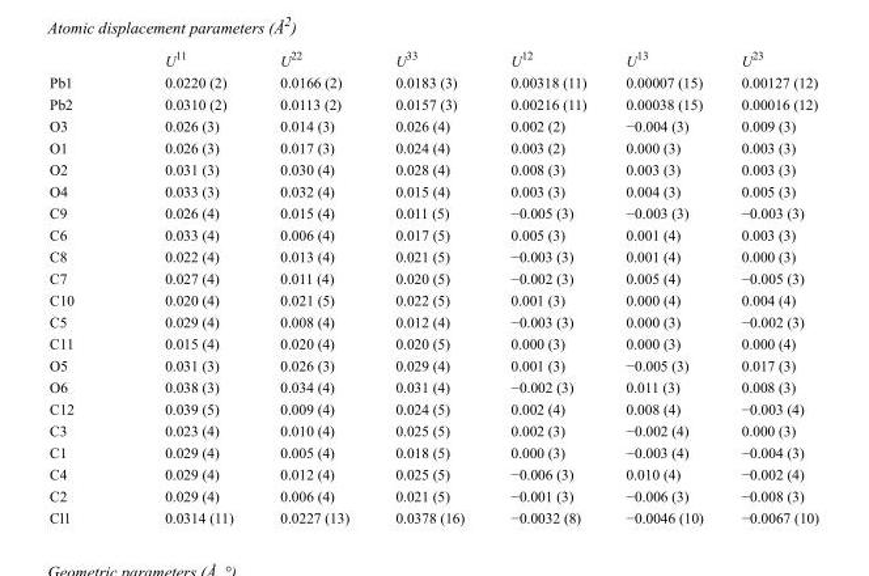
<table><thead><tr><td></td><td>U<sup>11</sup></td><td>U<sup>22</sup></td><td>U<sup>33</sup></td><td>U<sup>12</sup></td><td>U<sup>13</sup></td><td>U<sup>23</sup></td></tr></thead><tbody><tr><td>Pb1</td><td>0.0220 (2)</td><td>0.0166 (2)</td><td>0.0183 (3)</td><td>0.00318 (11)</td><td>0.00007 (15)</td><td>0.00127 (12)</td></tr><tr><td>Pb2</td><td>0.0310 (2)</td><td>0.0113 (2)</td><td>0.0157 (3)</td><td>0.00216 (11)</td><td>0.00038 (15)</td><td>0.00016 (12)</td></tr><tr><td>O3</td><td>0.026 (3)</td><td>0.014 (3)</td><td>0.026 (4)</td><td>0.002 (2)</td><td>−0.004 (3)</td><td>0.009 (3)</td></tr><tr><td>O1</td><td>0.026 (3)</td><td>0.017 (3)</td><td>0.024 (4)</td><td>0.003 (2)</td><td>0.000 (3)</td><td>0.003 (3)</td></tr><tr><td>O2</td><td>0.031 (3)</td><td>0.030 (4)</td><td>0.028 (4)</td><td>0.008 (3)</td><td>0.003 (3)</td><td>0.003 (3)</td></tr><tr><td>O4</td><td>0.033 (3)</td><td>0.032 (4)</td><td>0.015 (4)</td><td>0.003 (3)</td><td>0.004 (3)</td><td>0.005 (3)</td></tr><tr><td>C9</td><td>0.026 (4)</td><td>0.015 (4)</td><td>0.011 (5)</td><td>−0.005 (3)</td><td>−0.003 (3)</td><td>−0.003 (3)</td></tr><tr><td>C6</td><td>0.033 (4)</td><td>0.006 (4)</td><td>0.017 (5)</td><td>0.005 (3)</td><td>0.001 (4)</td><td>0.003 (3)</td></tr><tr><td>C8</td><td>0.022 (4)</td><td>0.013 (4)</td><td>0.021 (5)</td><td>−0.003 (3)</td><td>0.001 (4)</td><td>0.000 (3)</td></tr><tr><td>C7</td><td>0.027 (4)</td><td>0.011 (4)</td><td>0.020 (5)</td><td>−0.002 (3)</td><td>0.005 (4)</td><td>−0.005 (3)</td></tr><tr><td>C10</td><td>0.020 (4)</td><td>0.021 (5)</td><td>0.022 (5)</td><td>0.001 (3)</td><td>0.000 (4)</td><td>0.004 (4)</td></tr><tr><td>C5</td><td>0.029 (4)</td><td>0.008 (4)</td><td>0.012 (4)</td><td>−0.003 (3)</td><td>0.000 (3)</td><td>−0.002 (3)</td></tr><tr><td>C11</td><td>0.015 (4)</td><td>0.020 (4)</td><td>0.020 (5)</td><td>0.000 (3)</td><td>0.000 (3)</td><td>0.000 (4)</td></tr><tr><td>O5</td><td>0.031 (3)</td><td>0.026 (3)</td><td>0.029 (4)</td><td>0.001 (3)</td><td>−0.005 (3)</td><td>0.017 (3)</td></tr><tr><td>O6</td><td>0.038 (3)</td><td>0.034 (4)</td><td>0.031 (4)</td><td>−0.002 (3)</td><td>0.011 (3)</td><td>0.008 (3)</td></tr><tr><td>C12</td><td>0.039 (5)</td><td>0.009 (4)</td><td>0.024 (5)</td><td>0.002 (4)</td><td>0.008 (4)</td><td>−0.003 (4)</td></tr><tr><td>C3</td><td>0.023 (4)</td><td>0.010 (4)</td><td>0.025 (5)</td><td>0.002 (3)</td><td>−0.002 (4)</td><td>0.000 (3)</td></tr><tr><td>C1</td><td>0.029 (4)</td><td>0.005 (4)</td><td>0.018 (5)</td><td>0.000 (3)</td><td>−0.003 (4)</td><td>−0.004 (3)</td></tr><tr><td>C4</td><td>0.029 (4)</td><td>0.012 (4)</td><td>0.025 (5)</td><td>−0.006 (3)</td><td>0.010 (4)</td><td>−0.002 (4)</td></tr><tr><td>C2</td><td>0.029 (4)</td><td>0.006 (4)</td><td>0.021 (5)</td><td>−0.001 (3)</td><td>−0.006 (3)</td><td>−0.008 (3)</td></tr><tr><td>Cl1</td><td>0.0314 (11)</td><td>0.0227 (13)</td><td>0.0378 (16)</td><td>−0.0032 (8)</td><td>−0.0046 (10)</td><td>−0.0067 (10)</td></tr></tbody></table>